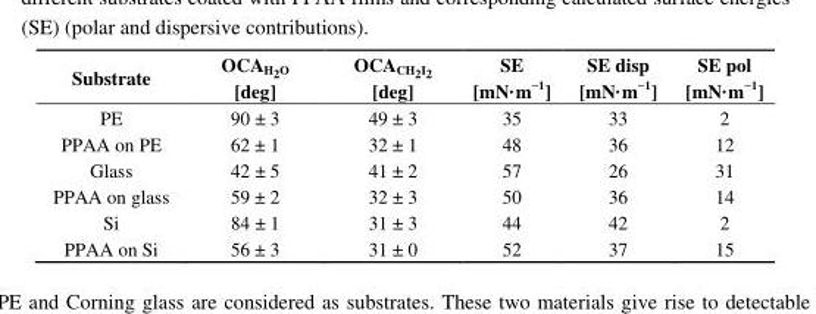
<table><thead><tr><td>Substrate</td><td>OCA<sub>H</sub>2<sub>O</sub> [deg]</td><td>OCACH2I2 [deg]</td><td>SE [mN·m<sup>−1</sup>]</td><td>SE disp [mN·m<sup>−1</sup>]</td><td>SE pol [mN·m<sup>−1</sup>]</td></tr></thead><tbody><tr><td>PE</td><td>90 ± 3</td><td>49 ± 3</td><td>35</td><td>33</td><td>2</td></tr><tr><td>PPAA on PE</td><td>62 ± 1</td><td>32 ± 1</td><td>48</td><td>36</td><td>12</td></tr><tr><td>Glass</td><td>42 ± 5</td><td>41 ± 2</td><td>57</td><td>26</td><td>31</td></tr><tr><td>PPAA on glass</td><td>59 ± 2</td><td>32 ± 3</td><td>50</td><td>36</td><td>14</td></tr><tr><td>Si</td><td>84 ± 1</td><td>31 ± 3</td><td>44</td><td>42</td><td>2</td></tr><tr><td>PPAA on Si</td><td>56 ± 3</td><td>31 ± 0</td><td>52</td><td>37</td><td>15</td></tr></tbody></table>